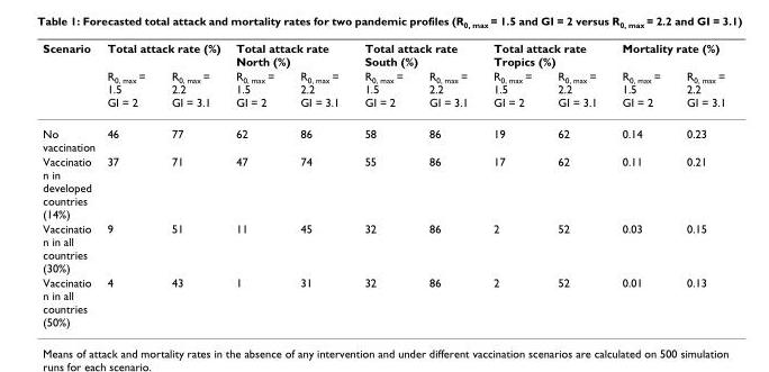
<table><thead><tr><td rowspan="2">Scenario</td><td colspan="2">Total attack rate (%)</td><td colspan="2">Total attack rate North (%)</td><td colspan="2">Total attack rate South (%)</td><td colspan="2">Total attack rate Tropics (%)</td><td colspan="2">Mortality rate (%)</td></tr><tr><td>R<sub>0, max</sub> = 1.5 GI = 2</td><td>R<sub>0, max</sub> = 2.2 GI = 3.1</td><td>R<sub>0, max</sub> = 1.5 GI = 2</td><td>R<sub>0, max</sub> = 2.2 GI = 3.1</td><td>R<sub>0, max</sub> = 1.5 GI = 2</td><td>R<sub>0, max</sub> = 2.2 GI = 3.1</td><td>R<sub>0, max</sub> = 1.5 GI = 2</td><td>R<sub>0, max</sub> = 2.2 GI = 3.1</td><td>R<sub>0, max</sub> = 1.5 GI = 2</td><td>R<sub>0, max</sub> = 2.2 GI = 3.1</td></tr></thead><tbody><tr><td>No vaccination</td><td>46</td><td>77</td><td>62</td><td>86</td><td>58</td><td>86</td><td>19</td><td>62</td><td>0.14</td><td>0.23</td></tr><tr><td>Vaccinatio n in developed countries (14%)</td><td>37</td><td>71</td><td>47</td><td>74</td><td>55</td><td>86</td><td>17</td><td>62</td><td>0.11</td><td>0.21</td></tr><tr><td>Vaccinatio n in all countries (30%)</td><td>9</td><td>51</td><td>11</td><td>45</td><td>32</td><td>86</td><td>2</td><td>52</td><td>0.03</td><td>0.15</td></tr><tr><td>Vaccinatio n in all countries (50%)</td><td>4</td><td>43</td><td>1</td><td>31</td><td>32</td><td>86</td><td>2</td><td>52</td><td>0.01</td><td>0.13</td></tr></tbody></table>